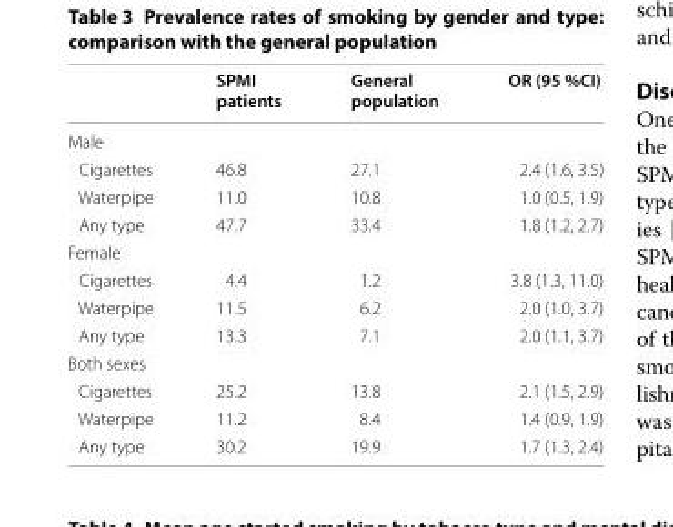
<table><thead><tr><td></td><td>SPMI patients</td><td>General population</td><td>OR (95 %CI)</td></tr></thead><tbody><tr><td colspan="4">Male</td></tr><tr><td>Cigarettes</td><td>46.8</td><td>27.1</td><td>2.4 (1.6, 3.5)</td></tr><tr><td>Waterpipe</td><td>11.0</td><td>10.8</td><td>1.0 (0.5, 1.9)</td></tr><tr><td>Any type</td><td>47.7</td><td>33.4</td><td>1.8 (1.2, 2.7)</td></tr><tr><td colspan="4">Female</td></tr><tr><td>Cigarettes</td><td>4.4</td><td>1.2</td><td>3.8 (1.3, 11.0)</td></tr><tr><td>Waterpipe</td><td>11.5</td><td>6.2</td><td>2.0 (1.0, 3.7)</td></tr><tr><td>Any type</td><td>13.3</td><td>7.1</td><td>2.0 (1.1, 3.7)</td></tr><tr><td colspan="4">Both sexes</td></tr><tr><td>Cigarettes</td><td>25.2</td><td>13.8</td><td>2.1 (1.5, 2.9)</td></tr><tr><td>Waterpipe</td><td>11.2</td><td>8.4</td><td>1.4 (0.9, 1.9)</td></tr><tr><td>Any type</td><td>30.2</td><td>19.9</td><td>1.7 (1.3, 2.4)</td></tr></tbody></table>